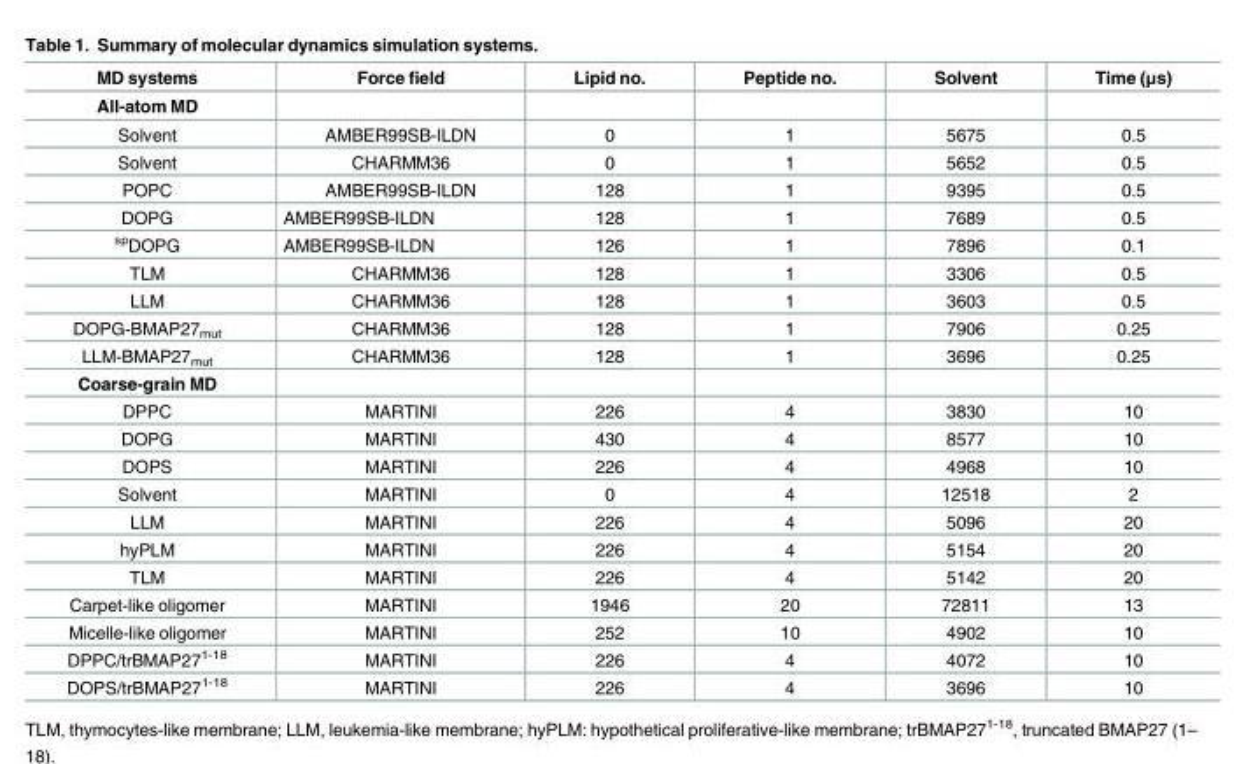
<table><thead><tr><td rowspan="2">MD systems All-atom MD</td><td rowspan="2">Force field</td><td rowspan="2">Lipid no.</td><td rowspan="2">Peptide no.</td><td rowspan="2">Solvent</td><td rowspan="2">Time (μs)</td></tr><tr></tr></thead><tbody><tr><td>Solvent</td><td>AMBER99SB-ILDN</td><td>0</td><td>1</td><td>5675</td><td>0.5</td></tr><tr><td>Solvent</td><td>CHARMM36</td><td>0</td><td>1</td><td>5652</td><td>0.5</td></tr><tr><td>POPC</td><td>AMBER99SB-ILDN</td><td>128</td><td>1</td><td>9395</td><td>0.5</td></tr><tr><td>DOPG</td><td>AMBER99SB-ILDN</td><td>128</td><td>1</td><td>7689</td><td>0.5</td></tr><tr><td><sup>sp</sup>DOPG</td><td>AMBER99SB-ILDN</td><td>126</td><td>1</td><td>7896</td><td>0.1</td></tr><tr><td>TLM</td><td>CHARMM36</td><td>128</td><td>1</td><td>3306</td><td>0.5</td></tr><tr><td>LLM</td><td>CHARMM36</td><td>128</td><td>1</td><td>3603</td><td>0.5</td></tr><tr><td>DOPG-BMAP27<sub>mut</sub></td><td>CHARMM36</td><td>128</td><td>1</td><td>7906</td><td>0.25</td></tr><tr><td>LLM-BMAP27<sub>mut</sub></td><td>CHARMM36</td><td>128</td><td>1</td><td>3696</td><td>0.25</td></tr><tr><td colspan="6">Coarse-grain MD</td></tr><tr><td>DPPC</td><td>MARTINI</td><td>226</td><td>4</td><td>3830</td><td>10</td></tr><tr><td>DOPG</td><td>MARTINI</td><td>430</td><td>4</td><td>8577</td><td>10</td></tr><tr><td>DOPS</td><td>MARTINI</td><td>226</td><td>4</td><td>4968</td><td>10</td></tr><tr><td>Solvent</td><td>MARTINI</td><td>0</td><td>4</td><td>12518</td><td>2</td></tr><tr><td>LLM</td><td>MARTINI</td><td>226</td><td>4</td><td>5096</td><td>20</td></tr><tr><td>hyPLM</td><td>MARTINI</td><td>226</td><td>4</td><td>5154</td><td>20</td></tr><tr><td>TLM</td><td>MARTINI</td><td>226</td><td>4</td><td>5142</td><td>20</td></tr><tr><td>Carpet-like oligomer</td><td>MARTINI</td><td>1946</td><td>20</td><td>72811</td><td>13</td></tr><tr><td>Micelle-like oligomer</td><td>MARTINI</td><td>252</td><td>10</td><td>4902</td><td>10</td></tr><tr><td>DPPC/trBMAP27<sup>1-18</sup></td><td>MARTINI</td><td>226</td><td>4</td><td>4072</td><td>10</td></tr><tr><td>DOPS/trBMAP27<sup>1-18</sup></td><td>MARTINI</td><td>226</td><td>4</td><td>3696</td><td>10</td></tr></tbody></table>